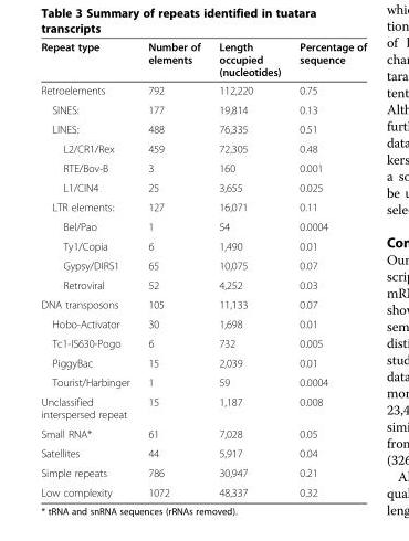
<table><thead><tr><td>Repeat type</td><td>Number of elements</td><td>Length occupied (nucleotides)</td><td>Percentage of sequence</td></tr></thead><tbody><tr><td>Retroelements</td><td>792</td><td>112,220</td><td>0.75</td></tr><tr><td>SINES:</td><td>177</td><td>19,814</td><td>0.13</td></tr><tr><td>LINES:</td><td>488</td><td>76,335</td><td>0.51</td></tr><tr><td>L2/CR1/Rex</td><td>459</td><td>72,305</td><td>0.48</td></tr><tr><td>RTE/Bov-B</td><td>3</td><td>160</td><td>0.001</td></tr><tr><td>L1/CIN4</td><td>25</td><td>3,655</td><td>0.025</td></tr><tr><td>LTR elements:</td><td>127</td><td>16,071</td><td>0.11</td></tr><tr><td>Bel/Pao</td><td>1</td><td>54</td><td>0.0004</td></tr><tr><td>Ty1/Copia</td><td>6</td><td>1,490</td><td>0.01</td></tr><tr><td>Gypsy/DIRS1</td><td>65</td><td>10,075</td><td>0.07</td></tr><tr><td>Retroviral</td><td>52</td><td>4,252</td><td>0.03</td></tr><tr><td>DNA transposons</td><td>105</td><td>11,133</td><td>0.07</td></tr><tr><td>Hobo-Activator</td><td>30</td><td>1,698</td><td>0.01</td></tr><tr><td>Tc1-IS630-Pogo</td><td>6</td><td>732</td><td>0.005</td></tr><tr><td>PiggyBac</td><td>15</td><td>2,039</td><td>0.01</td></tr><tr><td>Tourist/Harbinger</td><td>1</td><td>59</td><td>0.0004</td></tr><tr><td>Unclassified interspersed repeat</td><td>15</td><td>1,187</td><td>0.008</td></tr><tr><td>Small RNA*</td><td>61</td><td>7,028</td><td>0.05</td></tr><tr><td>Satellites</td><td>44</td><td>5,917</td><td>0.04</td></tr><tr><td>Simple repeats</td><td>786</td><td>30,947</td><td>0.21</td></tr><tr><td>Low complexity</td><td>1072</td><td>48,337</td><td>0.32</td></tr></tbody></table>